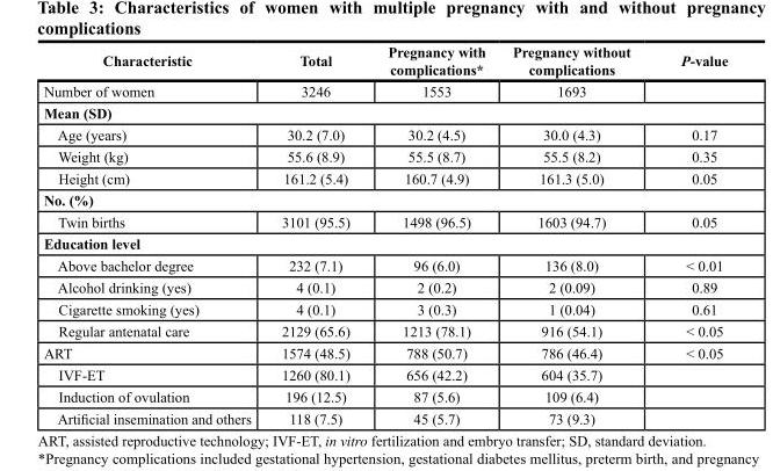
<table><thead><tr><td>Characteristic</td><td>Total</td><td>Pregnancy with complications*</td><td>Pregnancy without complications</td><td>P-value</td></tr></thead><tbody><tr><td>Number of women</td><td>3246</td><td>1553</td><td>1693</td><td></td></tr><tr><td colspan="5">Mean (SD)</td></tr><tr><td>Age (years)</td><td>30.2 (7.0)</td><td>30.2 (4.5)</td><td>30.0 (4.3)</td><td>0.17</td></tr><tr><td>Weight (kg)</td><td>55.6 (8.9)</td><td>55.5 (8.7)</td><td>55.5 (8.2)</td><td>0.35</td></tr><tr><td>Height (cm)</td><td>161.2 (5.4)</td><td>160.7 (4.9)</td><td>161.3 (5.0)</td><td>0.05</td></tr><tr><td colspan="5">No. (%)</td></tr><tr><td>Twin births</td><td>3101 (95.5)</td><td>1498 (96.5)</td><td>1603 (94.7)</td><td>0.05</td></tr><tr><td colspan="5">Education level</td></tr><tr><td>Above bachelor degree</td><td>232 (7.1)</td><td>96 (6.0)</td><td>136 (8.0)</td><td>&lt; 0.01</td></tr><tr><td>Alcohol drinking (yes)</td><td>4 (0.1)</td><td>2 (0.2)</td><td>2 (0.09)</td><td>0.89</td></tr><tr><td>Cigarette smoking (yes)</td><td>4 (0.1)</td><td>3 (0.3)</td><td>1 (0.04)</td><td>0.61</td></tr><tr><td>Regular antenatal care</td><td>2129 (65.6)</td><td>1213 (78.1)</td><td>916 (54.1)</td><td>&lt; 0.05</td></tr><tr><td>ART</td><td>1574 (48.5)</td><td>788 (50.7)</td><td>786 (46.4)</td><td>&lt; 0.05</td></tr><tr><td>IVF-ET</td><td>1260 (80.1)</td><td>656 (42.2)</td><td>604 (35.7)</td><td></td></tr><tr><td>Induction of ovulation</td><td>196 (12.5)</td><td>87 (5.6)</td><td>109 (6.4)</td><td></td></tr><tr><td>Artificial insemination and others</td><td>118 (7.5)</td><td>45 (5.7)</td><td>73 (9.3)</td><td></td></tr></tbody></table>